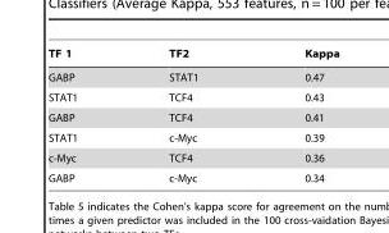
<table><thead><tr><td>TF 1</td><td>TF2</td><td>Kappa</td></tr></thead><tbody><tr><td>GABP</td><td>STAT1</td><td>0.47</td></tr><tr><td>STAT1</td><td>TCF4</td><td>0.43</td></tr><tr><td>GABP</td><td>TCF4</td><td>0.41</td></tr><tr><td>STAT1</td><td>c-Myc</td><td>0.39</td></tr><tr><td>c-Myc</td><td>TCF4</td><td>0.36</td></tr><tr><td>GABP</td><td>c-Myc</td><td>0.34</td></tr></tbody></table>